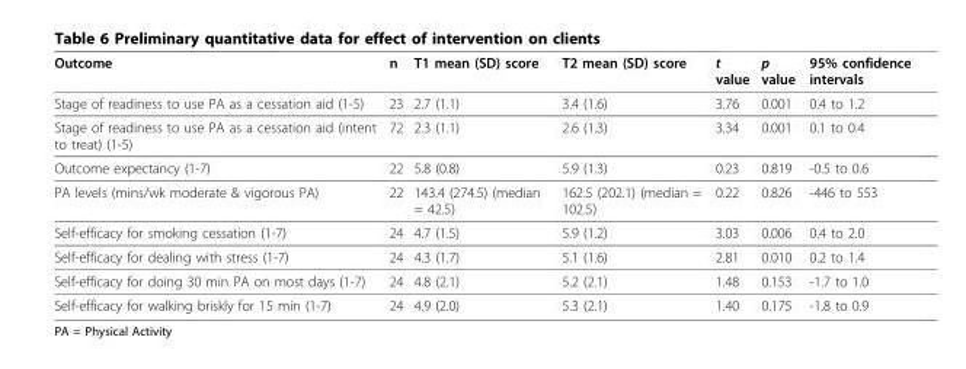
<table><thead><tr><td>Outcome</td><td>n</td><td>T1 mean (SD) score</td><td>T2 mean (SD) score</td><td>t value</td><td>p value</td><td>95% confidence intervals</td></tr></thead><tbody><tr><td>Stage of readiness to use PA as a cessation aid (1-5)</td><td>23</td><td>2.7 (1.1)</td><td>3.4 (1.6)</td><td>3.76</td><td>0.001</td><td>0.4 to 1.2</td></tr><tr><td>Stage of readiness to use PA as a cessation aid (intent to treat) (1-5)</td><td>72</td><td>2.3 (1.1)</td><td>2.6 (1.3)</td><td>3.34</td><td>0.001</td><td>0.1 to 0.4</td></tr><tr><td>Outcome expectancy (1-7)</td><td>22</td><td>5.8 (0.8)</td><td>5.9 (1.3)</td><td>0.23</td><td>0.819</td><td>-0.5 to 0.6</td></tr><tr><td>PA levels (mins/wk moderate &amp; vigorous PA)</td><td>22</td><td>143.4 (274.5) (median = 42.5)</td><td>162.5 (202.1) (median = 102.5)</td><td>0.22</td><td>0.826</td><td>-446 to 553</td></tr><tr><td>Self-efficacy for smoking cessation (1-7)</td><td>24</td><td>4.7 (1.5)</td><td>5.9 (1.2)</td><td>3.03</td><td>0.006</td><td>0.4 to 2.0</td></tr><tr><td>Self-efficacy for dealing with stress (1-7)</td><td>24</td><td>4.3 (1.7)</td><td>5.1 (1.6)</td><td>2.81</td><td>0.010</td><td>0.2 to 1.4</td></tr><tr><td>Self-efficacy for doing 30 min PA on most days (1-7)</td><td>24</td><td>4.8 (2.1)</td><td>5.2 (2.1)</td><td>1.48</td><td>0.153</td><td>-1.7 to 1.0</td></tr><tr><td>Self-efficacy for walking briskly for 15 min (1-7)</td><td>24</td><td>4.9 (2.0)</td><td>5.3 (2.1)</td><td>1.40</td><td>0.175</td><td>-1.8 to 0.9</td></tr></tbody></table>